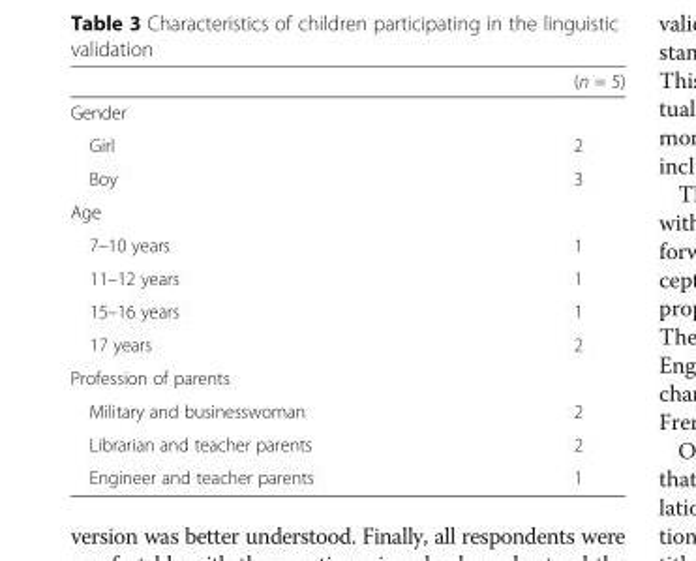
<table><thead><tr><td></td><td>(n = 5)</td></tr></thead><tbody><tr><td colspan="2">Gender</td></tr><tr><td>Girl</td><td>2</td></tr><tr><td>Boy</td><td>3</td></tr><tr><td colspan="2">Age</td></tr><tr><td>7–10 years</td><td>1</td></tr><tr><td>11–12 years</td><td>1</td></tr><tr><td>15–16 years</td><td>1</td></tr><tr><td>17 years</td><td>2</td></tr><tr><td colspan="2">Profession of parents</td></tr><tr><td>Military and businesswoman</td><td>2</td></tr><tr><td>Librarian and teacher parents</td><td>2</td></tr><tr><td>Engineer and teacher parents</td><td>1</td></tr></tbody></table>